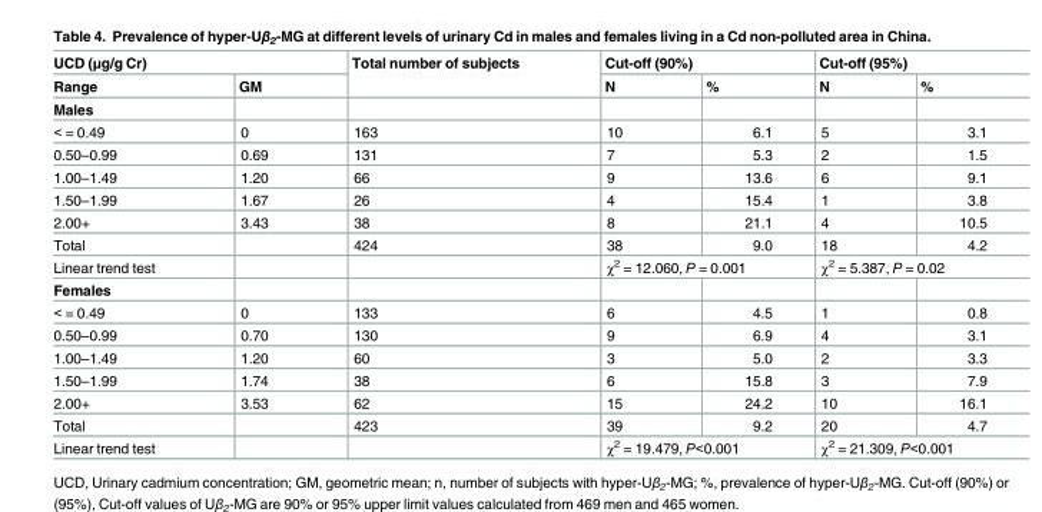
<table><thead><tr><td colspan="2">UCD (μg/g Cr)</td><td rowspan="2">Total number of subjects</td><td colspan="2">Cut-off (90%)</td><td colspan="2">Cut-off (95%)</td></tr><tr><td>Range</td><td>GM</td><td>N</td><td>%</td><td>N</td><td>%</td></tr></thead><tbody><tr><td colspan="7">Males</td></tr><tr><td>&lt; = 0.49</td><td>0</td><td>163</td><td>10</td><td>6.1</td><td>5</td><td>3.1</td></tr><tr><td>0.50–0.99</td><td>0.69</td><td>131</td><td>7</td><td>5.3</td><td>2</td><td>1.5</td></tr><tr><td>1.00–1.49</td><td>1.20</td><td>66</td><td>9</td><td>13.6</td><td>6</td><td>9.1</td></tr><tr><td>1.50–1.99</td><td>1.67</td><td>26</td><td>4</td><td>15.4</td><td>1</td><td>3.8</td></tr><tr><td>2.00+</td><td>3.43</td><td>38</td><td>8</td><td>21.1</td><td>4</td><td>10.5</td></tr><tr><td>Total</td><td></td><td>424</td><td>38</td><td>9.0</td><td>18</td><td>4.2</td></tr><tr><td>Linear trend test</td><td></td><td></td><td colspan="2">χ<sup>2</sup> = 12.060, P = 0.001</td><td colspan="2">χ<sup>2</sup> = 5.387, P = 0.02</td></tr><tr><td colspan="7">Females</td></tr><tr><td>&lt; = 0.49</td><td>0</td><td>133</td><td>6</td><td>4.5</td><td>1</td><td>0.8</td></tr><tr><td>0.50–0.99</td><td>0.70</td><td>130</td><td>9</td><td>6.9</td><td>4</td><td>3.1</td></tr><tr><td>1.00–1.49</td><td>1.20</td><td>60</td><td>3</td><td>5.0</td><td>2</td><td>3.3</td></tr><tr><td>1.50–1.99</td><td>1.74</td><td>38</td><td>6</td><td>15.8</td><td>3</td><td>7.9</td></tr><tr><td>2.00+</td><td>3.53</td><td>62</td><td>15</td><td>24.2</td><td>10</td><td>16.1</td></tr><tr><td>Total</td><td></td><td>423</td><td>39</td><td>9.2</td><td>20</td><td>4.7</td></tr><tr><td>Linear trend test</td><td></td><td></td><td colspan="2">χ<sup>2</sup> = 19.479, P&lt;0.001</td><td colspan="2">χ<sup>2</sup> = 21.309, P&lt;0.001</td></tr></tbody></table>